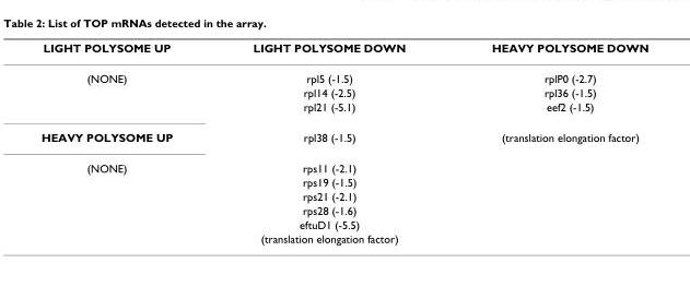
<table><thead><tr><td>LIGHT POLYSOME UP</td><td>LIGHT POLYSOME DOWN</td><td>HEAVY POLYSOME DOWN</td></tr></thead><tbody><tr><td rowspan="3">(NONE)</td><td>rpl5 (-1.5)</td><td>rplP0 (-2.7)</td></tr><tr><td>rpl14 (-2.5)</td><td>rpl36 (-1.5)</td></tr><tr><td>rpl21 (-5.1)</td><td>eef2 (-1.5)</td></tr><tr><td>HEAVY POLYSOME UP</td><td>rpl38 (-1.5)</td><td>(translation elongation factor)</td></tr><tr><td rowspan="6">(NONE)</td><td>rps11 (-2.1)</td><td></td></tr><tr><td>rps19 (-1.5)</td><td></td></tr><tr><td>rps21 (-2.1)</td><td></td></tr><tr><td>rps28 (-1.6)</td><td></td></tr><tr><td>eftuD1 (-5.5)</td><td></td></tr><tr><td>(translation elongation factor)</td><td></td></tr></tbody></table>